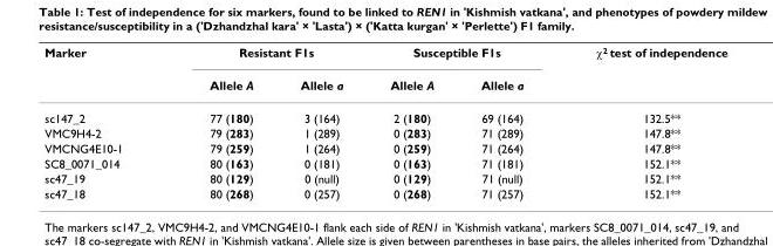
<table><thead><tr><td rowspan="2">Marker</td><td colspan="2">Resistant F1s</td><td colspan="2">Susceptible F1s</td><td rowspan="2">χ<sup>2</sup> test of independence</td></tr><tr><td>Allele A</td><td>Allele a</td><td>Allele A</td><td>Allele a</td></tr></thead><tbody><tr><td>sc147_2</td><td>77 (180)</td><td>3 (164)</td><td>2 (180)</td><td>69 (164)</td><td>132.5**</td></tr><tr><td>VMC9H4-2</td><td>79 (283)</td><td>1 (289)</td><td>0 (283)</td><td>71 (289)</td><td>147.8**</td></tr><tr><td>VMCNG4E10-1</td><td>79 (259)</td><td>1 (264)</td><td>0 (259)</td><td>71 (264)</td><td>147.8**</td></tr><tr><td>SC8_0071_014</td><td>80 (163)</td><td>0 (181)</td><td>0 (163)</td><td>71 (181)</td><td>152.1**</td></tr><tr><td>sc47_19</td><td>80 (129)</td><td>0 (null)</td><td>0 (129)</td><td>71 (null)</td><td>152.1**</td></tr><tr><td>sc47_18</td><td>80 (268)</td><td>0 (257)</td><td>0 (268)</td><td>71 (257)</td><td>152.1**</td></tr></tbody></table>